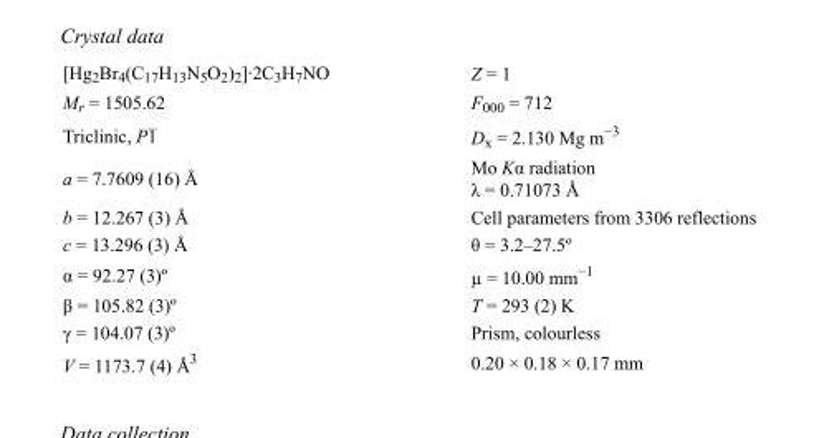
<table><tbody><tr><td>[Hg<sub>2</sub>Br<sub>4</sub>(C<sub>17</sub>H<sub>13</sub>N<sub>5</sub>O<sub>2</sub>)<sub>2</sub>]·2C<sub>3</sub>H<sub>7</sub>NO</td><td>Z = 1</td></tr><tr><td>M<sub>r</sub> = 1505.62</td><td>F000 = 712</td></tr><tr><td>Triclinic, P1</td><td>D<sub>x</sub> = 2.130 Mg m<sup>−3</sup></td></tr><tr><td>a = 7.7609 (16) Å</td><td>Mo Kα radiation λ = 0.71073 Å</td></tr><tr><td>b = 12.267 (3) Å</td><td>Cell parameters from 3306 reflections</td></tr><tr><td>c = 13.296 (3) Å</td><td>θ = 3.2–27.5º</td></tr><tr><td>α = 92.27 (3)º</td><td>µ = 10.00 mm<sup>−1</sup></td></tr><tr><td>β = 105.82 (3)º</td><td>T = 293 (2) K</td></tr><tr><td>γ = 104.07 (3)º</td><td>Prism, colourless</td></tr><tr><td>V = 1173.7 (4) Å<sup>3</sup></td><td>0.20 × 0.18 × 0.17 mm</td></tr></tbody></table>